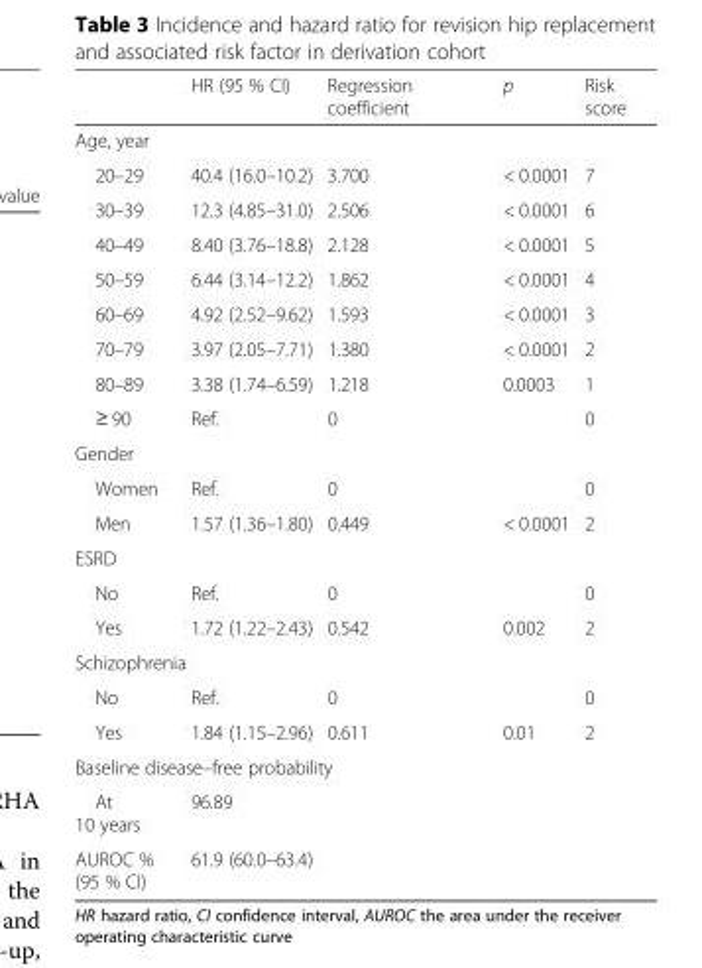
<table><thead><tr><td></td><td>HR (95 % CI)</td><td>Regression coefficient</td><td>p</td><td>Risk score</td></tr></thead><tbody><tr><td colspan="5">Age, year</td></tr><tr><td>20–29</td><td>40.4 (16.0–10.2)</td><td>3.700</td><td>&lt; 0.0001</td><td>7</td></tr><tr><td>30–39</td><td>12.3 (4.85–31.0)</td><td>2.506</td><td>&lt; 0.0001</td><td>6</td></tr><tr><td>40–49</td><td>8.40 (3.76–18.8)</td><td>2.128</td><td>&lt; 0.0001</td><td>5</td></tr><tr><td>50–59</td><td>6.44 (3.14–12.2)</td><td>1.862</td><td>&lt; 0.0001</td><td>4</td></tr><tr><td>60–69</td><td>4.92 (2.52–9.62)</td><td>1.593</td><td>&lt; 0.0001</td><td>3</td></tr><tr><td>70–79</td><td>3.97 (2.05–7.71)</td><td>1.380</td><td>&lt; 0.0001</td><td>2</td></tr><tr><td>80–89</td><td>3.38 (1.74–6.59)</td><td>1.218</td><td>0.0003</td><td>1</td></tr><tr><td>≥ 90</td><td>Ref.</td><td>0</td><td></td><td>0</td></tr><tr><td colspan="5">Gender</td></tr><tr><td>Women</td><td>Ref.</td><td>0</td><td></td><td>0</td></tr><tr><td>Men</td><td>1.57 (1.36–1.80)</td><td>0.449</td><td>&lt; 0.0001</td><td>2</td></tr><tr><td colspan="5">ESRD</td></tr><tr><td>No</td><td>Ref.</td><td>0</td><td></td><td>0</td></tr><tr><td>Yes</td><td>1.72 (1.22–2.43)</td><td>0.542</td><td>0.002</td><td>2</td></tr><tr><td colspan="5">Schizophrenia</td></tr><tr><td>No</td><td>Ref.</td><td>0</td><td></td><td>0</td></tr><tr><td>Yes</td><td>1.84 (1.15–2.96)</td><td>0.611</td><td>0.01</td><td>2</td></tr><tr><td colspan="5">Baseline disease–free probability</td></tr><tr><td>At 10 years</td><td>96.89</td><td></td><td></td><td></td></tr><tr><td>AUROC % (95 % CI)</td><td>61.9 (60.0–63.4)</td><td></td><td></td><td></td></tr></tbody></table>